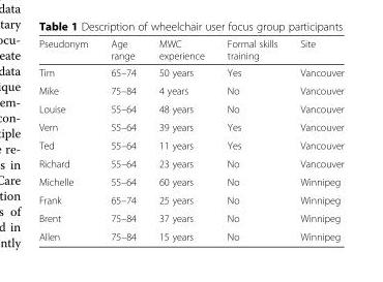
<table><thead><tr><td>Pseudonym</td><td>Age range</td><td>MWC experience</td><td>Formal skills training</td><td>Site</td></tr></thead><tbody><tr><td>Tim</td><td>65–74</td><td>50 years</td><td>Yes</td><td>Vancouver</td></tr><tr><td>Mike</td><td>75–84</td><td>4 years</td><td>No</td><td>Vancouver</td></tr><tr><td>Louise</td><td>55–64</td><td>48 years</td><td>No</td><td>Vancouver</td></tr><tr><td>Vern</td><td>55–64</td><td>39 years</td><td>Yes</td><td>Vancouver</td></tr><tr><td>Ted</td><td>55–64</td><td>11 years</td><td>Yes</td><td>Vancouver</td></tr><tr><td>Richard</td><td>55–64</td><td>23 years</td><td>No</td><td>Vancouver</td></tr><tr><td>Michelle</td><td>55–64</td><td>60 years</td><td>No</td><td>Winnipeg</td></tr><tr><td>Frank</td><td>65–74</td><td>25 years</td><td>No</td><td>Winnipeg</td></tr><tr><td>Brent</td><td>75–84</td><td>37 years</td><td>No</td><td>Winnipeg</td></tr><tr><td>Allen</td><td>75–84</td><td>15 years</td><td>No</td><td>Winnipeg</td></tr></tbody></table>